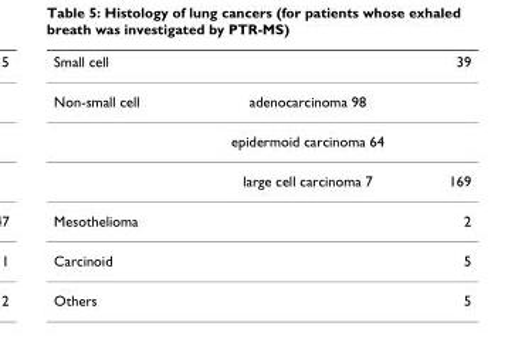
<table><thead><tr><td>Small cell</td><td></td><td>39</td></tr></thead><tbody><tr><td rowspan="3">Non-small cell</td><td>adenocarcinoma 98</td><td></td></tr><tr><td>epidermoid carcinoma 64</td><td></td></tr><tr><td>large cell carcinoma 7</td><td>169</td></tr><tr><td>Mesothelioma</td><td></td><td>2</td></tr><tr><td>Carcinoid</td><td></td><td>5</td></tr><tr><td>Others</td><td></td><td>5</td></tr></tbody></table>